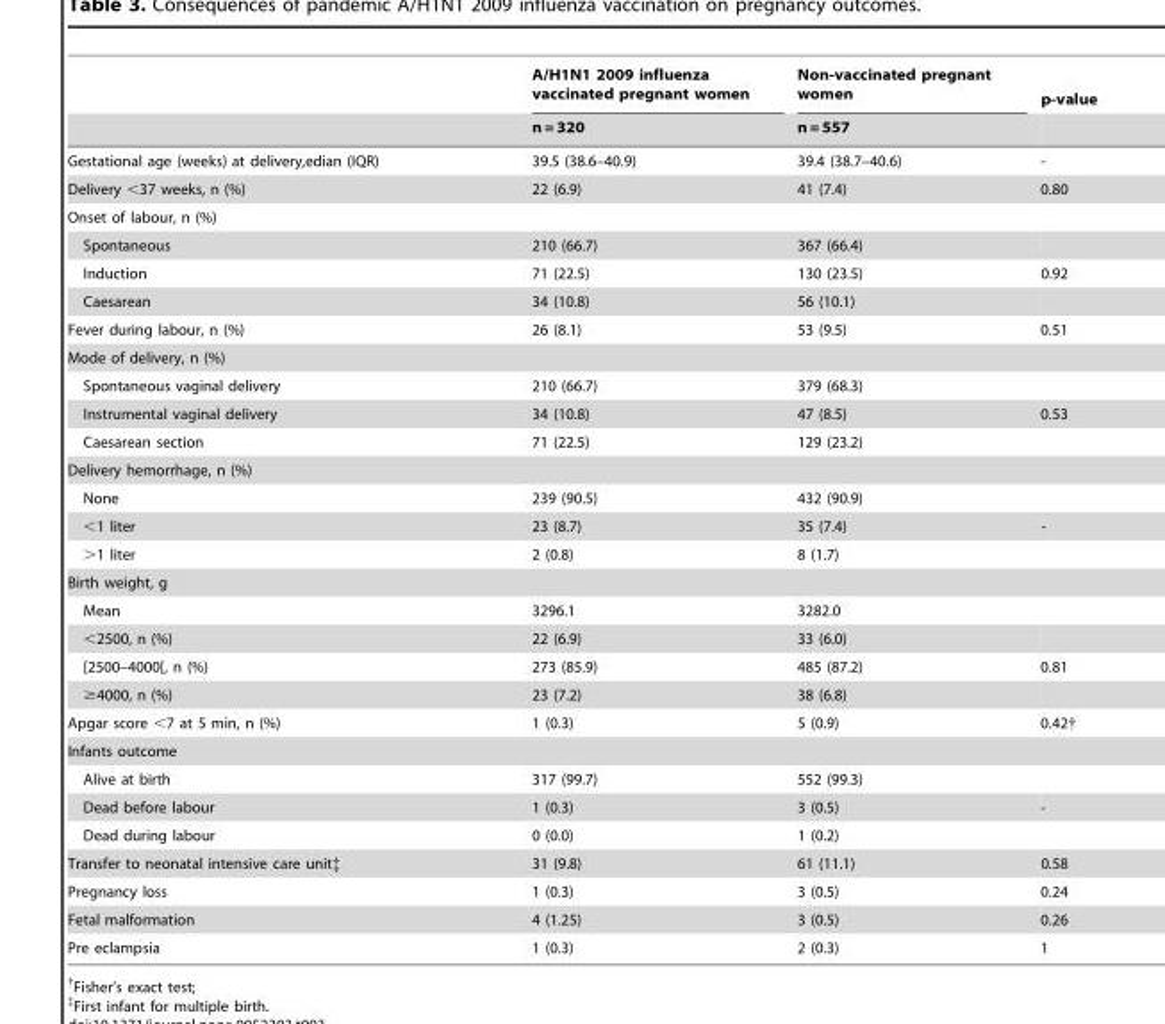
<table><thead><tr><td rowspan="2"></td><td rowspan="2">A/H1N1 2009 influenza vaccinated pregnant women n = 320</td><td rowspan="2">Non-vaccinated pregnant women n = 557</td><td rowspan="2">p-value</td></tr><tr></tr></thead><tbody><tr><td>Gestational age (weeks) at delivery,edian (IQR)</td><td>39.5 (38.6–40.9)</td><td>39.4 (38.7–40.6)</td><td>-</td></tr><tr><td>Delivery &lt;37 weeks, n (%)</td><td>22 (6.9)</td><td>41 (7.4)</td><td>0.80</td></tr><tr><td colspan="4">Onset of labour, n (%)</td></tr><tr><td>Spontaneous</td><td>210 (66.7)</td><td>367 (66.4)</td><td></td></tr><tr><td>Induction</td><td>71 (22.5)</td><td>130 (23.5)</td><td>0.92</td></tr><tr><td>Caesarean</td><td>34 (10.8)</td><td>56 (10.1)</td><td></td></tr><tr><td>Fever during labour, n (%)</td><td>26 (8.1)</td><td>53 (9.5)</td><td>0.51</td></tr><tr><td colspan="4">Mode of delivery, n (%)</td></tr><tr><td>Spontaneous vaginal delivery</td><td>210 (66.7)</td><td>379 (68.3)</td><td></td></tr><tr><td>Instrumental vaginal delivery</td><td>34 (10.8)</td><td>47 (8.5)</td><td>0.53</td></tr><tr><td>Caesarean section</td><td>71 (22.5)</td><td>129 (23.2)</td><td></td></tr><tr><td colspan="4">Delivery hemorrhage, n (%)</td></tr><tr><td>None</td><td>239 (90.5)</td><td>432 (90.9)</td><td></td></tr><tr><td>&lt;1 liter</td><td>23 (8.7)</td><td>35 (7.4)</td><td>-</td></tr><tr><td>&gt;1 liter</td><td>2 (0.8)</td><td>8 (1.7)</td><td></td></tr><tr><td colspan="4">Birth weight, g</td></tr><tr><td>Mean</td><td>3296.1</td><td>3282.0</td><td></td></tr><tr><td>&lt;2500, n (%)</td><td>22 (6.9)</td><td>33 (6.0)</td><td></td></tr><tr><td>[2500–4000[, n (%)</td><td>273 (85.9)</td><td>485 (87.2)</td><td>0.81</td></tr><tr><td>≥4000, n (%)</td><td>23 (7.2)</td><td>38 (6.8)</td><td></td></tr><tr><td>Apgar score &lt;7 at 5 min, n (%)</td><td>1 (0.3)</td><td>5 (0.9)</td><td>0.42†</td></tr><tr><td colspan="4">Infants outcome</td></tr><tr><td>Alive at birth</td><td>317 (99.7)</td><td>552 (99.3)</td><td></td></tr><tr><td>Dead before labour</td><td>1 (0.3)</td><td>3 (0.5)</td><td>-</td></tr><tr><td>Dead during labour</td><td>0 (0.0)</td><td>1 (0.2)</td><td></td></tr><tr><td>Transfer to neonatal intensive care unit‡</td><td>31 (9.8)</td><td>61 (11.1)</td><td>0.58</td></tr><tr><td>Pregnancy loss</td><td>1 (0.3)</td><td>3 (0.5)</td><td>0.24</td></tr><tr><td>Fetal malformation</td><td>4 (1.25)</td><td>3 (0.5)</td><td>0.26</td></tr><tr><td>Pre eclampsia</td><td>1 (0.3)</td><td>2 (0.3)</td><td>1</td></tr></tbody></table>